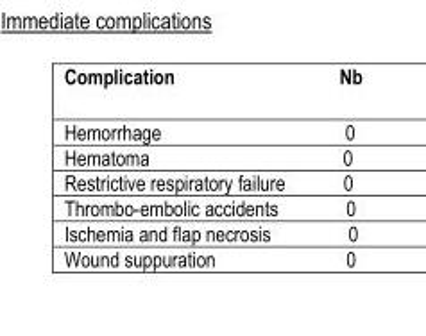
<table><thead><tr><td rowspan="7">Complication Hemorrhage Hematoma Restrictive respiratory failure Thrombo-embolic accidents Ischemia and flap necrosis Wound suppuration</td><td rowspan="7">Nb 0 0 0 0 0 0</td></tr><tr></tr><tr></tr><tr></tr><tr></tr><tr></tr><tr></tr></thead><tbody></tbody></table>